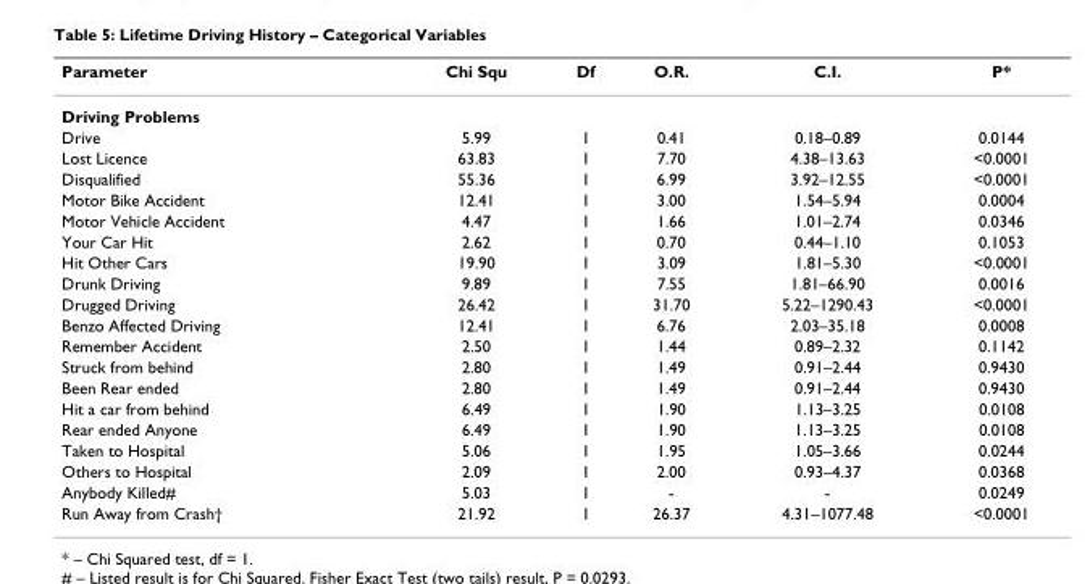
<table><thead><tr><td>Parameter</td><td>Chi Squ</td><td>Df</td><td>O.R.</td><td>C.I.</td><td>P*</td></tr></thead><tbody><tr><td colspan="6">Driving Problems</td></tr><tr><td>Drive</td><td>5.99</td><td>1</td><td>0.41</td><td>0.18–0.89</td><td>0.0144</td></tr><tr><td>Lost Licence</td><td>63.83</td><td>1</td><td>7.70</td><td>4.38–13.63</td><td>&lt;0.0001</td></tr><tr><td>Disqualified</td><td>55.36</td><td>1</td><td>6.99</td><td>3.92–12.55</td><td>&lt;0.0001</td></tr><tr><td>Motor Bike Accident</td><td>12.41</td><td>1</td><td>3.00</td><td>1.54–5.94</td><td>0.0004</td></tr><tr><td>Motor Vehicle Accident</td><td>4.47</td><td>1</td><td>1.66</td><td>1.01–2.74</td><td>0.0346</td></tr><tr><td>Your Car Hit</td><td>2.62</td><td>1</td><td>0.70</td><td>0.44–1.10</td><td>0.1053</td></tr><tr><td>Hit Other Cars</td><td>19.90</td><td>1</td><td>3.09</td><td>1.81–5.30</td><td>&lt;0.0001</td></tr><tr><td>Drunk Driving</td><td>9.89</td><td>1</td><td>7.55</td><td>1.81–66.90</td><td>0.0016</td></tr><tr><td>Drugged Driving</td><td>26.42</td><td>1</td><td>31.70</td><td>5.22–1290.43</td><td>&lt;0.0001</td></tr><tr><td>Benzo Affected Driving</td><td>12.41</td><td>1</td><td>6.76</td><td>2.03–35.18</td><td>0.0008</td></tr><tr><td>Remember Accident</td><td>2.50</td><td>1</td><td>1.44</td><td>0.89–2.32</td><td>0.1142</td></tr><tr><td>Struck from behind</td><td>2.80</td><td>1</td><td>1.49</td><td>0.91–2.44</td><td>0.9430</td></tr><tr><td>Been Rear ended</td><td>2.80</td><td>1</td><td>1.49</td><td>0.91–2.44</td><td>0.9430</td></tr><tr><td>Hit a car from behind</td><td>6.49</td><td>1</td><td>1.90</td><td>1.13–3.25</td><td>0.0108</td></tr><tr><td>Rear ended Anyone</td><td>6.49</td><td>1</td><td>1.90</td><td>1.13–3.25</td><td>0.0108</td></tr><tr><td>Taken to Hospital</td><td>5.06</td><td>1</td><td>1.95</td><td>1.05–3.66</td><td>0.0244</td></tr><tr><td>Others to Hospital</td><td>2.09</td><td>1</td><td>2.00</td><td>0.93–4.37</td><td>0.0368</td></tr><tr><td>Anybody Killed#</td><td>5.03</td><td>1</td><td>-</td><td>-</td><td>0.0249</td></tr><tr><td>Run Away from Crash†</td><td>21.92</td><td>1</td><td>26.37</td><td>4.31–1077.48</td><td>&lt;0.0001</td></tr></tbody></table>